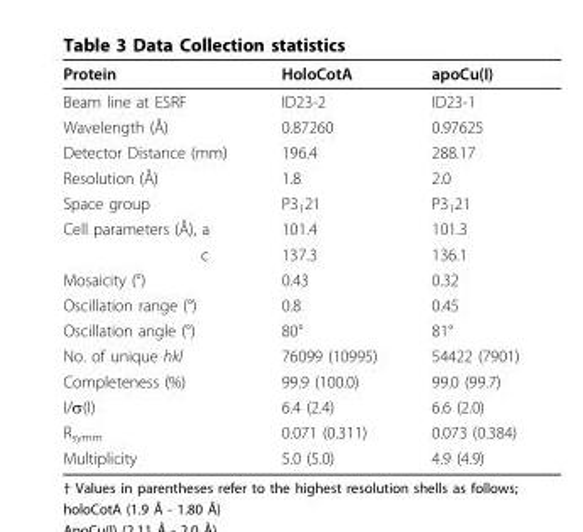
<table><thead><tr><td>Protein</td><td>HoloCotA</td><td>apoCu(I)</td></tr></thead><tbody><tr><td>Beam line at ESRF</td><td>ID23-2</td><td>ID23-1</td></tr><tr><td>Wavelength (Å)</td><td>0.87260</td><td>0.97625</td></tr><tr><td>Detector Distance (mm)</td><td>196.4</td><td>288.17</td></tr><tr><td>Resolution (Å)</td><td>1.8</td><td>2.0</td></tr><tr><td>Space group</td><td>P3<sub>1</sub>21</td><td>P3<sub>1</sub>21</td></tr><tr><td>Cell parameters (Å), a</td><td>101.4</td><td>101.3</td></tr><tr><td>c</td><td>137.3</td><td>136.1</td></tr><tr><td>Mosaicity (°)</td><td>0.43</td><td>0.32</td></tr><tr><td>Oscillation range (°)</td><td>0.8</td><td>0.45</td></tr><tr><td>Oscillation angle (°)</td><td>80°</td><td>81°</td></tr><tr><td>No. of unique hkl</td><td>76099 (10995)</td><td>54422 (7901)</td></tr><tr><td>Completeness (%)</td><td>99.9 (100.0)</td><td>99.0 (99.7)</td></tr><tr><td>I/σ(I)</td><td>6.4 (2.4)</td><td>6.6 (2.0)</td></tr><tr><td>R<sub>symm</sub></td><td>0.071 (0.311)</td><td>0.073 (0.384)</td></tr><tr><td>Multiplicity</td><td>5.0 (5.0)</td><td>4.9 (4.9)</td></tr></tbody></table>